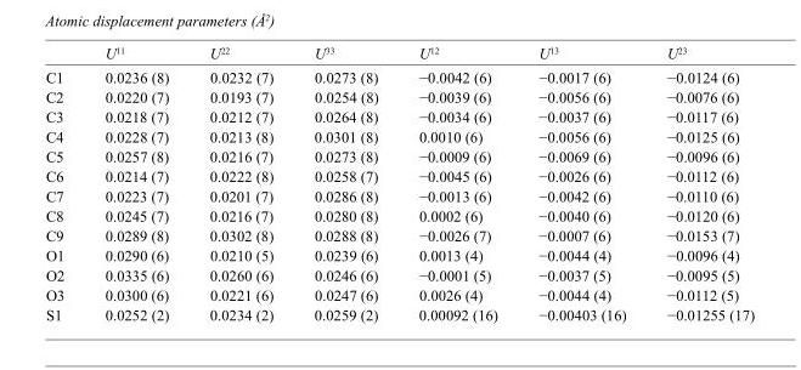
<table><thead><tr><td></td><td>U<sup>11</sup></td><td>U<sup>22</sup></td><td>U<sup>33</sup></td><td>U<sup>12</sup></td><td>U<sup>13</sup></td><td>U<sup>23</sup></td></tr></thead><tbody><tr><td>C1</td><td>0.0236 (8)</td><td>0.0232 (7)</td><td>0.0273 (8)</td><td>−0.0042 (6)</td><td>−0.0017 (6)</td><td>−0.0124 (6)</td></tr><tr><td>C2</td><td>0.0220 (7)</td><td>0.0193 (7)</td><td>0.0254 (8)</td><td>−0.0039 (6)</td><td>−0.0056 (6)</td><td>−0.0076 (6)</td></tr><tr><td>C3</td><td>0.0218 (7)</td><td>0.0212 (7)</td><td>0.0264 (8)</td><td>−0.0034 (6)</td><td>−0.0037 (6)</td><td>−0.0117 (6)</td></tr><tr><td>C4</td><td>0.0228 (7)</td><td>0.0213 (8)</td><td>0.0301 (8)</td><td>0.0010 (6)</td><td>−0.0056 (6)</td><td>−0.0125 (6)</td></tr><tr><td>C5</td><td>0.0257 (8)</td><td>0.0216 (7)</td><td>0.0273 (8)</td><td>−0.0009 (6)</td><td>−0.0069 (6)</td><td>−0.0096 (6)</td></tr><tr><td>C6</td><td>0.0214 (7)</td><td>0.0222 (8)</td><td>0.0258 (7)</td><td>−0.0045 (6)</td><td>−0.0026 (6)</td><td>−0.0112 (6)</td></tr><tr><td>C7</td><td>0.0223 (7)</td><td>0.0201 (7)</td><td>0.0286 (8)</td><td>−0.0013 (6)</td><td>−0.0042 (6)</td><td>−0.0110 (6)</td></tr><tr><td>C8</td><td>0.0245 (7)</td><td>0.0216 (7)</td><td>0.0280 (8)</td><td>0.0002 (6)</td><td>−0.0040 (6)</td><td>−0.0120 (6)</td></tr><tr><td>C9</td><td>0.0289 (8)</td><td>0.0302 (8)</td><td>0.0288 (8)</td><td>−0.0026 (7)</td><td>−0.0007 (6)</td><td>−0.0153 (7)</td></tr><tr><td>O1</td><td>0.0290 (6)</td><td>0.0210 (5)</td><td>0.0239 (6)</td><td>0.0013 (4)</td><td>−0.0044 (4)</td><td>−0.0096 (4)</td></tr><tr><td>O2</td><td>0.0335 (6)</td><td>0.0260 (6)</td><td>0.0246 (6)</td><td>−0.0001 (5)</td><td>−0.0037 (5)</td><td>−0.0095 (5)</td></tr><tr><td>O3</td><td>0.0300 (6)</td><td>0.0221 (6)</td><td>0.0247 (6)</td><td>0.0026 (4)</td><td>−0.0044 (4)</td><td>−0.0112 (5)</td></tr><tr><td>S1</td><td>0.0252 (2)</td><td>0.0234 (2)</td><td>0.0259 (2)</td><td>0.00092 (16)</td><td>−0.00403 (16)</td><td>−0.01255 (17)</td></tr></tbody></table>